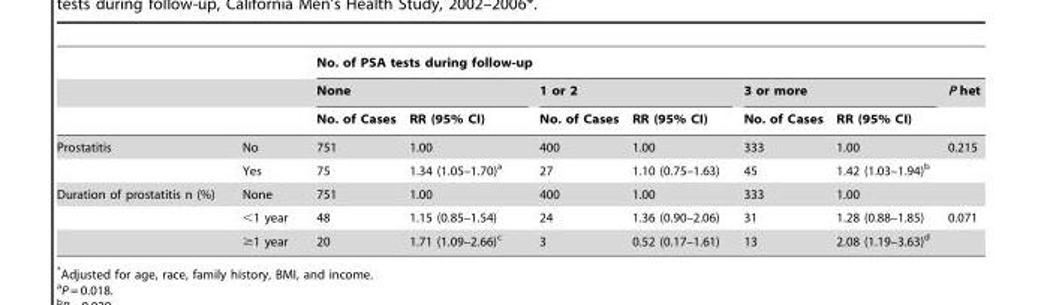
<table><thead><tr><td rowspan="3"></td><td rowspan="3"></td><td colspan="7">No. of PSA tests during follow-up</td></tr><tr><td colspan="2">None</td><td colspan="2">1 or 2</td><td colspan="2">3 or more</td><td rowspan="2">P het</td></tr><tr><td>No. of Cases</td><td>RR (95% CI)</td><td>No. of Cases</td><td>RR (95% CI)</td><td>No. of Cases</td><td>RR (95% CI)</td></tr></thead><tbody><tr><td rowspan="2">Prostatitis</td><td>No</td><td>751</td><td>1.00</td><td>400</td><td>1.00</td><td>333</td><td>1.00</td><td>0.215</td></tr><tr><td>Yes</td><td>75</td><td>1.34 (1.05–1.70)<sup>a</sup></td><td>27</td><td>1.10 (0.75–1.63)</td><td>45</td><td>1.42 (1.03–1.94)<sup>b</sup></td><td></td></tr><tr><td rowspan="3">Duration of prostatitis n (%)</td><td>None</td><td>751</td><td>1.00</td><td>400</td><td>1.00</td><td>333</td><td>1.00</td><td></td></tr><tr><td>&lt;1 year</td><td>48</td><td>1.15 (0.85–1.54)</td><td>24</td><td>1.36 (0.90–2.06)</td><td>31</td><td>1.28 (0.88–1.85)</td><td>0.071</td></tr><tr><td>≥1 year</td><td>20</td><td>1.71 (1.09–2.66)<sup>c</sup></td><td>3</td><td>0.52 (0.17–1.61)</td><td>13</td><td>2.08 (1.19–3.63)<sup>d</sup></td><td></td></tr></tbody></table>